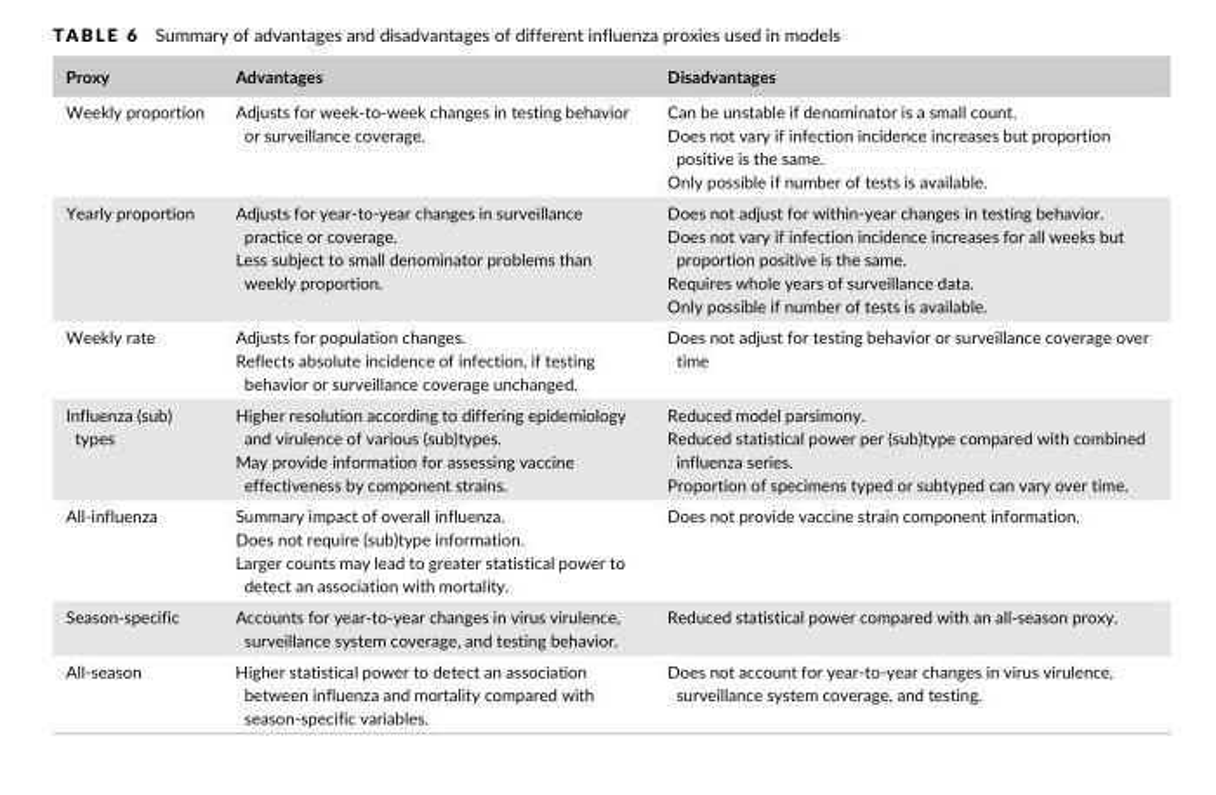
<table><thead><tr><td>Proxy</td><td>Advantages</td><td>Disadvantages</td></tr></thead><tbody><tr><td>Weekly proportion</td><td>Adjusts for week- to- week changes in testing behavior or surveillance coverage.</td><td>Can be unstable if denominator is a small count. Does not vary if infection incidence increases but proportion positive is the same. Only possible if number of tests is available.</td></tr><tr><td>Yearly proportion</td><td>Adjusts for year- to- year changes in surveillance practice or coverage. Less subject to small denominator problems than weekly proportion.</td><td>Does not adjust for within- year changes in testing behavior. Does not vary if infection incidence increases for all weeks but proportion positive is the same. Requires whole years of surveillance data. Only possible if number of tests is available.</td></tr><tr><td>Weekly rate</td><td>Adjusts for population changes. Reflects absolute incidence of infection, if testing behavior or surveillance coverage unchanged.</td><td>Does not adjust for testing behavior or surveillance coverage over time</td></tr><tr><td>Influenza (sub) types</td><td>Higher resolution according to differing epidemiology and virulence of various (sub)types. May provide information for assessing vaccine effectiveness by component strains.</td><td>Reduced model parsimony. Reduced statistical power per (sub)type compared with combined influenza series. Proportion of specimens typed or subtyped can vary over time.</td></tr><tr><td>All- influenza</td><td>Summary impact of overall influenza. Does not require (sub)type information. Larger counts may lead to greater statistical power to detect an association with mortality.</td><td>Does not provide vaccine strain component information.</td></tr><tr><td>Season- specific</td><td>Accounts for year- to- year changes in virus virulence, surveillance system coverage, and testing behavior.</td><td>Reduced statistical power compared with an all- season proxy.</td></tr><tr><td>All- season</td><td>Higher statistical power to detect an association between influenza and mortality compared with season- specific variables.</td><td>Does not account for year- to- year changes in virus virulence, surveillance system coverage, and testing.</td></tr></tbody></table>